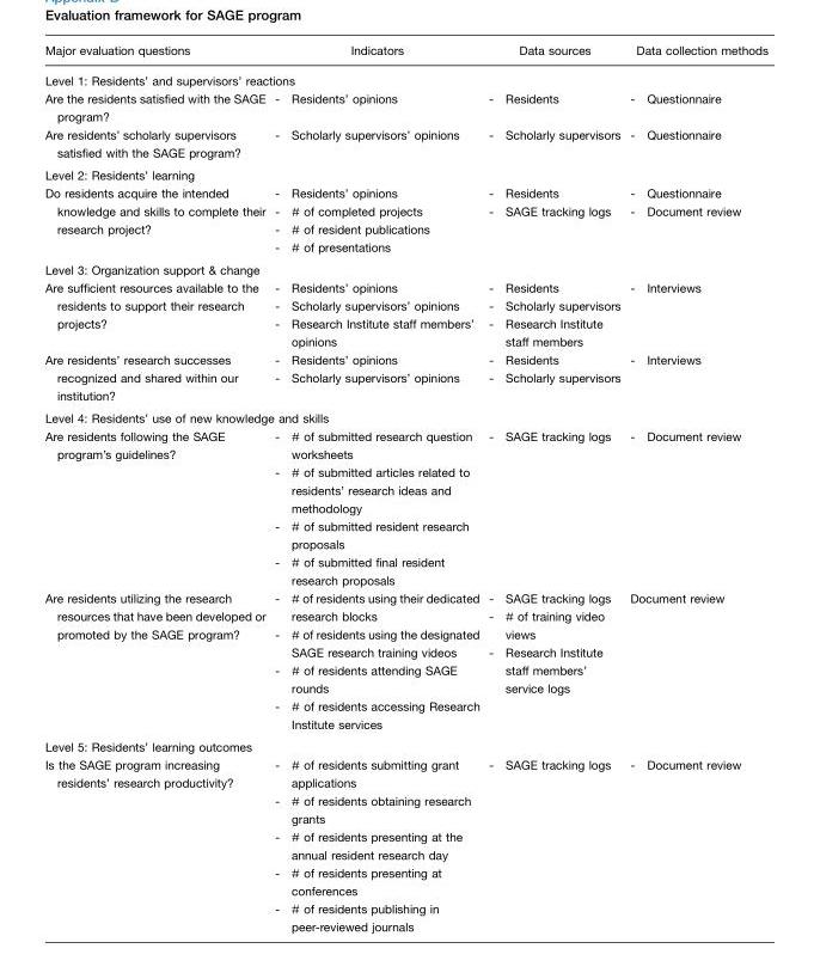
<table><thead><tr><td>Major evaluation questions</td><td>Indicators</td><td>Data sources</td><td>Data collection methods</td></tr></thead><tbody><tr><td colspan="4">Level 1: Residents’ and supervisors’ reactions</td></tr><tr><td>Are the residents satisfied with the SAGE program?</td><td>- Residents’ opinions</td><td>- Residents</td><td>- Questionnaire</td></tr><tr><td>Are residents’ scholarly supervisors satisfied with the SAGE program?</td><td>- Scholarly supervisors’ opinions</td><td>- Scholarly supervisors</td><td>- Questionnaire</td></tr><tr><td colspan="4">Level 2: Residents’ learning</td></tr><tr><td>Do residents acquire the intended knowledge and skills to complete their research project?</td><td>- Residents’ opinions - # of completed projects - # of resident publications - # of presentations</td><td>- Residents - SAGE tracking logs</td><td>- Questionnaire - Document review</td></tr><tr><td colspan="4">Level 3: Organization support &amp; change</td></tr><tr><td>Are sufficient resources available to the residents to support their research projects?</td><td>- Residents’ opinions - Scholarly supervisors’ opinions - Research Institute staff members’ opinions</td><td>- Residents - Scholarly supervisors - Research Institute staff members</td><td>- Interviews</td></tr><tr><td>Are residents’ research successes recognized and shared within our institution?</td><td>- Residents’ opinions - Scholarly supervisors’ opinions</td><td>- Residents - Scholarly supervisors</td><td>- Interviews</td></tr><tr><td colspan="4">Level 4: Residents’ use of new knowledge and skills</td></tr><tr><td>Are residents following the SAGE program’s guidelines?</td><td>- # of submitted research question worksheets - # of submitted articles related to residents’ research ideas and methodology - # of submitted resident research proposals - # of submitted final resident research proposals</td><td>- SAGE tracking logs</td><td>- Document review</td></tr><tr><td>Are residents utilizing the research resources that have been developed or promoted by the SAGE program?</td><td>- # of residents using their dedicated research blocks - # of residents using the designated SAGE research training videos - # of residents attending SAGE rounds - # of residents accessing Research Institute services</td><td>- SAGE tracking logs - # of training video views - Research Institute staff members’ service logs</td><td>Document review</td></tr><tr><td colspan="4">Level 5: Residents’ learning outcomes</td></tr><tr><td>Is the SAGE program increasing residents’ research productivity?</td><td>- # of residents submitting grant applications - # of residents obtaining research grants - # of residents presenting at the annual resident research day - # of residents presenting at conferences - # of residents publishing in peer-reviewed journals</td><td>- SAGE tracking logs</td><td>- Document review</td></tr></tbody></table>